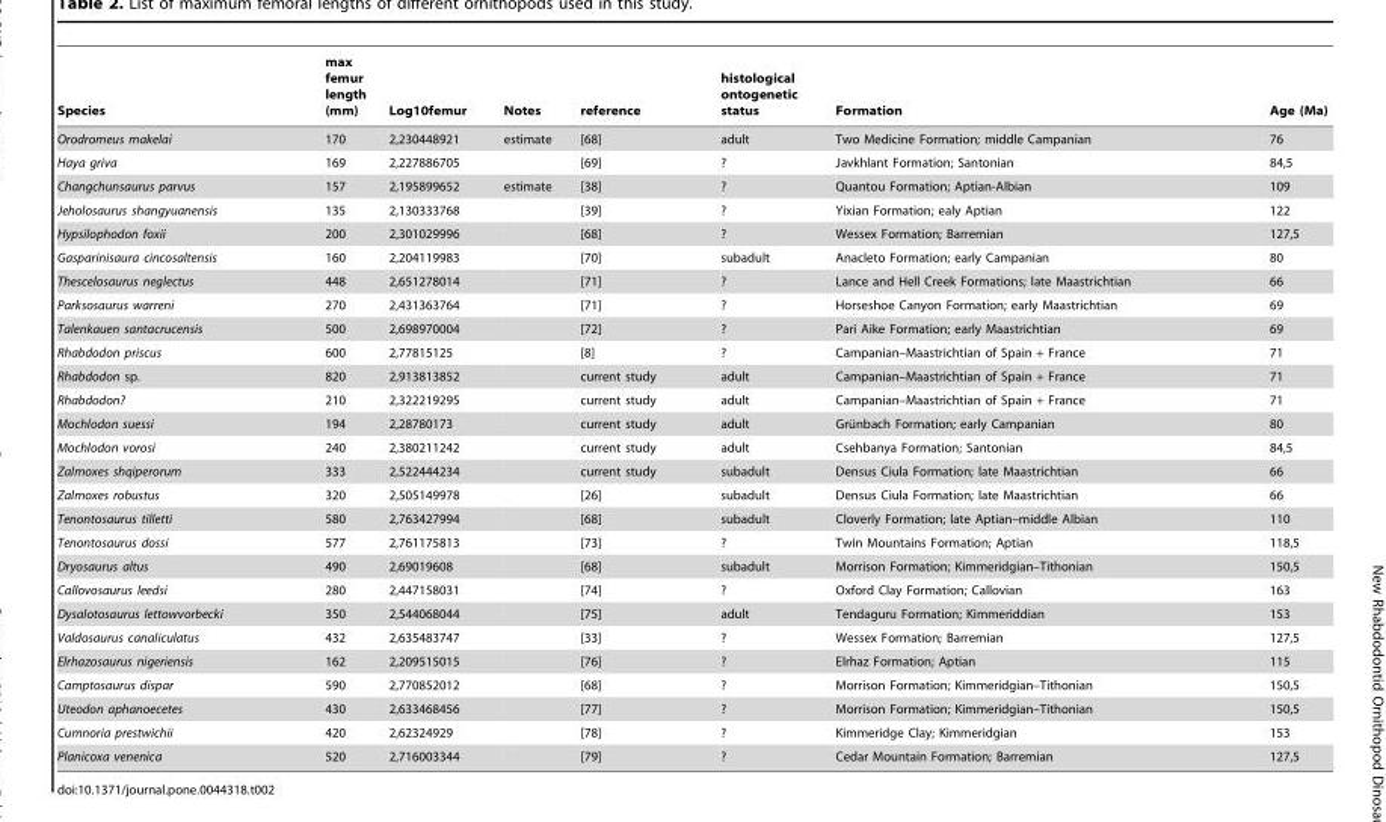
<table><thead><tr><td>Species</td><td>max femur length (mm)</td><td>Log10femur</td><td>Notes</td><td>reference</td><td>histological ontogenetic status</td><td>Formation</td><td>Age (Ma)</td></tr></thead><tbody><tr><td>Orodromeus makelai</td><td>170</td><td>2,230448921</td><td>estimate</td><td>[68]</td><td>adult</td><td>Two Medicine Formation; middle Campanian</td><td>76</td></tr><tr><td>Haya griva</td><td>169</td><td>2,227886705</td><td></td><td>[69]</td><td>?</td><td>Javkhlant Formation; Santonian</td><td>84,5</td></tr><tr><td>Changchunsaurus parvus</td><td>157</td><td>2,195899652</td><td>estimate</td><td>[38]</td><td>?</td><td>Quantou Formation; Aptian-Albian</td><td>109</td></tr><tr><td>Jeholosaurus shangyuanensis</td><td>135</td><td>2,130333768</td><td></td><td>[39]</td><td>?</td><td>Yixian Formation; ealy Aptian</td><td>122</td></tr><tr><td>Hypsilophodon foxii</td><td>200</td><td>2,301029996</td><td></td><td>[68]</td><td>?</td><td>Wessex Formation; Barremian</td><td>127,5</td></tr><tr><td>Gasparinisaura cincosaltensis</td><td>160</td><td>2,204119983</td><td></td><td>[70]</td><td>subadult</td><td>Anacleto Formation; early Campanian</td><td>80</td></tr><tr><td>Thescelosaurus neglectus</td><td>448</td><td>2,651278014</td><td></td><td>[71]</td><td>?</td><td>Lance and Hell Creek Formations; late Maastrichtian</td><td>66</td></tr><tr><td>Parksosaurus warreni</td><td>270</td><td>2,431363764</td><td></td><td>[71]</td><td>?</td><td>Horseshoe Canyon Formation; early Maastrichtian</td><td>69</td></tr><tr><td>Talenkauen santacrucensis</td><td>500</td><td>2,698970004</td><td></td><td>[72]</td><td>?</td><td>Pari Aike Formation; early Maastrichtian</td><td>69</td></tr><tr><td>Rhabdodon priscus</td><td>600</td><td>2,77815125</td><td></td><td>[8]</td><td>?</td><td>Campanian–Maastrichtian of Spain + France</td><td>71</td></tr><tr><td>Rhabdodon sp.</td><td>820</td><td>2,913813852</td><td></td><td>current study</td><td>adult</td><td>Campanian–Maastrichtian of Spain + France</td><td>71</td></tr><tr><td>Rhabdodon?</td><td>210</td><td>2,322219295</td><td></td><td>current study</td><td>adult</td><td>Campanian–Maastrichtian of Spain + France</td><td>71</td></tr><tr><td>Mochlodon suessi</td><td>194</td><td>2,28780173</td><td></td><td>current study</td><td>adult</td><td>Gru¨nbach Formation; early Campanian</td><td>80</td></tr><tr><td>Mochlodon vorosi</td><td>240</td><td>2,380211242</td><td></td><td>current study</td><td>adult</td><td>Csehbanya Formation; Santonian</td><td>84,5</td></tr><tr><td>Zalmoxes shqiperorum</td><td>333</td><td>2,522444234</td><td></td><td>current study</td><td>subadult</td><td>Densus Ciula Formation; late Maastrichtian</td><td>66</td></tr><tr><td>Zalmoxes robustus</td><td>320</td><td>2,505149978</td><td></td><td>[26]</td><td>subadult</td><td>Densus Ciula Formation; late Maastrichtian</td><td>66</td></tr><tr><td>Tenontosaurus tilletti</td><td>580</td><td>2,763427994</td><td></td><td>[68]</td><td>subadult</td><td>Cloverly Formation; late Aptian–middle Albian</td><td>110</td></tr><tr><td>Tenontosaurus dossi</td><td>577</td><td>2,761175813</td><td></td><td>[73]</td><td>?</td><td>Twin Mountains Formation; Aptian</td><td>118,5</td></tr><tr><td>Dryosaurus altus</td><td>490</td><td>2,69019608</td><td></td><td>[68]</td><td>subadult</td><td>Morrison Formation; Kimmeridgian–Tithonian</td><td>150,5</td></tr><tr><td>Callovosaurus leedsi</td><td>280</td><td>2,447158031</td><td></td><td>[74]</td><td>?</td><td>Oxford Clay Formation; Callovian</td><td>163</td></tr><tr><td>Dysalotosaurus lettowvorbecki</td><td>350</td><td>2,544068044</td><td></td><td>[75]</td><td>adult</td><td>Tendaguru Formation; Kimmeriddian</td><td>153</td></tr><tr><td>Valdosaurus canaliculatus</td><td>432</td><td>2,635483747</td><td></td><td>[33]</td><td>?</td><td>Wessex Formation; Barremian</td><td>127,5</td></tr><tr><td>Elrhazosaurus nigeriensis</td><td>162</td><td>2,209515015</td><td></td><td>[76]</td><td>?</td><td>Elrhaz Formation; Aptian</td><td>115</td></tr><tr><td>Camptosaurus dispar</td><td>590</td><td>2,770852012</td><td></td><td>[68]</td><td>?</td><td>Morrison Formation; Kimmeridgian–Tithonian</td><td>150,5</td></tr><tr><td>Uteodon aphanoecetes</td><td>430</td><td>2,633468456</td><td></td><td>[77]</td><td>?</td><td>Morrison Formation; Kimmeridgian–Tithonian</td><td>150,5</td></tr><tr><td>Cumnoria prestwichii</td><td>420</td><td>2,62324929</td><td></td><td>[78]</td><td>?</td><td>Kimmeridge Clay; Kimmeridgian</td><td>153</td></tr><tr><td>Planicoxa venenica</td><td>520</td><td>2,716003344</td><td></td><td>[79]</td><td>?</td><td>Cedar Mountain Formation; Barremian</td><td>127,5</td></tr></tbody></table>